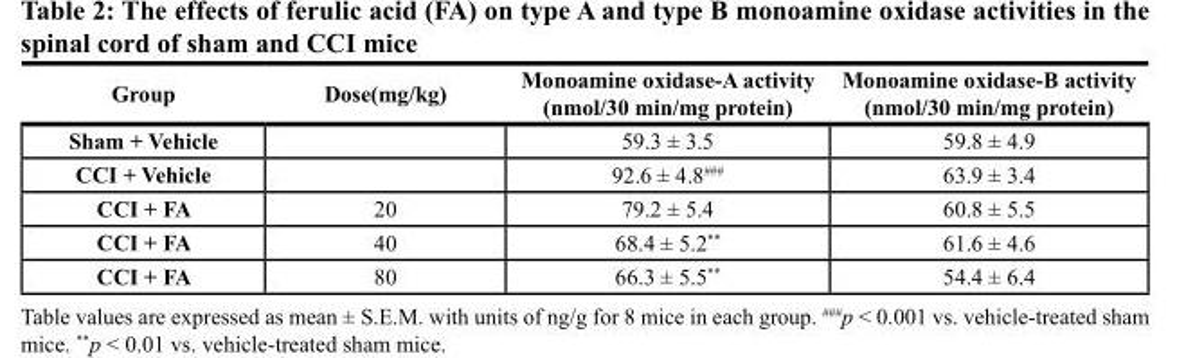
<table><thead><tr><td>Group</td><td>Dose(mg/kg)</td><td>Monoamine oxidase-A activity (nmol/30 min/mg protein)</td><td>Monoamine oxidase-B activity (nmol/30 min/mg protein)</td></tr></thead><tbody><tr><td>Sham + Vehicle</td><td></td><td>59.3 ± 3.5</td><td>59.8 ± 4.9</td></tr><tr><td>CCI + Vehicle</td><td></td><td>92.6 ± 4.8<sup>###</sup></td><td>63.9 ± 3.4</td></tr><tr><td>CCI + FA</td><td>20</td><td>79.2 ± 5.4</td><td>60.8 ± 5.5</td></tr><tr><td>CCI + FA</td><td>40</td><td>68.4 ± 5.2**</td><td>61.6 ± 4.6</td></tr><tr><td>CCI + FA</td><td>80</td><td>66.3 ± 5.5**</td><td>54.4 ± 6.4</td></tr></tbody></table>